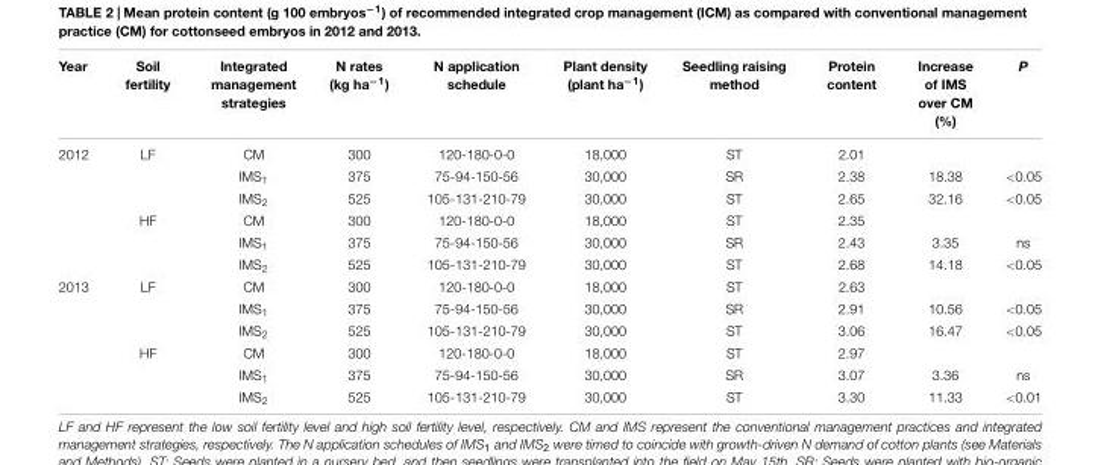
<table><thead><tr><td>Year</td><td>Soil fertility</td><td>Integrated management strategies</td><td>N rates (kg ha<sup>−1</sup>)</td><td>N application schedule</td><td>Plant density (plant ha<sup>−1</sup>)</td><td>Seedling raising method</td><td>Protein content</td><td>Increase of IMS over CM (%)</td><td>P</td></tr></thead><tbody><tr><td rowspan="6">2012</td><td>LF</td><td>CM</td><td>300</td><td>120-180-0-0</td><td>18,000</td><td>ST</td><td>2.01</td><td></td><td></td></tr><tr><td></td><td>IMS<sub>1</sub></td><td>375</td><td>75-94-150-56</td><td>30,000</td><td>SR</td><td>2.38</td><td>18.38</td><td>&lt;0.05</td></tr><tr><td></td><td>IMS<sub>2</sub></td><td>525</td><td>105-131-210-79</td><td>30,000</td><td>ST</td><td>2.65</td><td>32.16</td><td>&lt;0.05</td></tr><tr><td>HF</td><td>CM</td><td>300</td><td>120-180-0-0</td><td>18,000</td><td>ST</td><td>2.35</td><td></td><td></td></tr><tr><td></td><td>IMS<sub>1</sub></td><td>375</td><td>75-94-150-56</td><td>30,000</td><td>SR</td><td>2.43</td><td>3.35</td><td>ns</td></tr><tr><td></td><td>IMS<sub>2</sub></td><td>525</td><td>105-131-210-79</td><td>30,000</td><td>ST</td><td>2.68</td><td>14.18</td><td>&lt;0.05</td></tr><tr><td rowspan="6">2013</td><td>LF</td><td>CM</td><td>300</td><td>120-180-0-0</td><td>18,000</td><td>ST</td><td>2.63</td><td></td><td></td></tr><tr><td></td><td>IMS<sub>1</sub></td><td>375</td><td>75-94-150-56</td><td>30,000</td><td>SR</td><td>2.91</td><td>10.56</td><td>&lt;0.05</td></tr><tr><td></td><td>IMS<sub>2</sub></td><td>525</td><td>105-131-210-79</td><td>30,000</td><td>ST</td><td>3.06</td><td>16.47</td><td>&lt;0.05</td></tr><tr><td>HF</td><td>CM</td><td>300</td><td>120-180-0-0</td><td>18,000</td><td>ST</td><td>2.97</td><td></td><td></td></tr><tr><td></td><td>IMS<sub>1</sub></td><td>375</td><td>75-94-150-56</td><td>30,000</td><td>SR</td><td>3.07</td><td>3.36</td><td>ns</td></tr><tr><td></td><td>IMS<sub>2</sub></td><td>525</td><td>105-131-210-79</td><td>30,000</td><td>ST</td><td>3.30</td><td>11.33</td><td>&lt;0.01</td></tr></tbody></table>